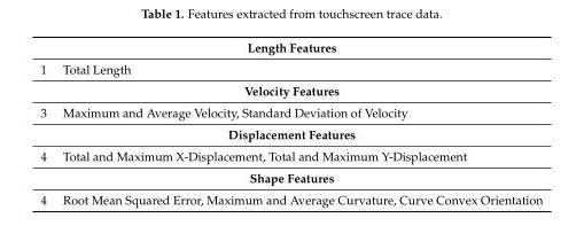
<table><tbody><tr><td colspan="2">Length Features</td></tr><tr><td>1</td><td>Total Length</td></tr><tr><td colspan="2">Velocity Features</td></tr><tr><td>3</td><td>Maximum and Average Velocity, Standard Deviation of Velocity</td></tr><tr><td colspan="2">Displacement Features</td></tr><tr><td>4</td><td>Total and Maximum X-Displacement, Total and Maximum Y-Displacement</td></tr><tr><td colspan="2">Shape Features</td></tr><tr><td>4</td><td>Root Mean Squared Error, Maximum and Average Curvature, Curve Convex Orientation</td></tr></tbody></table>